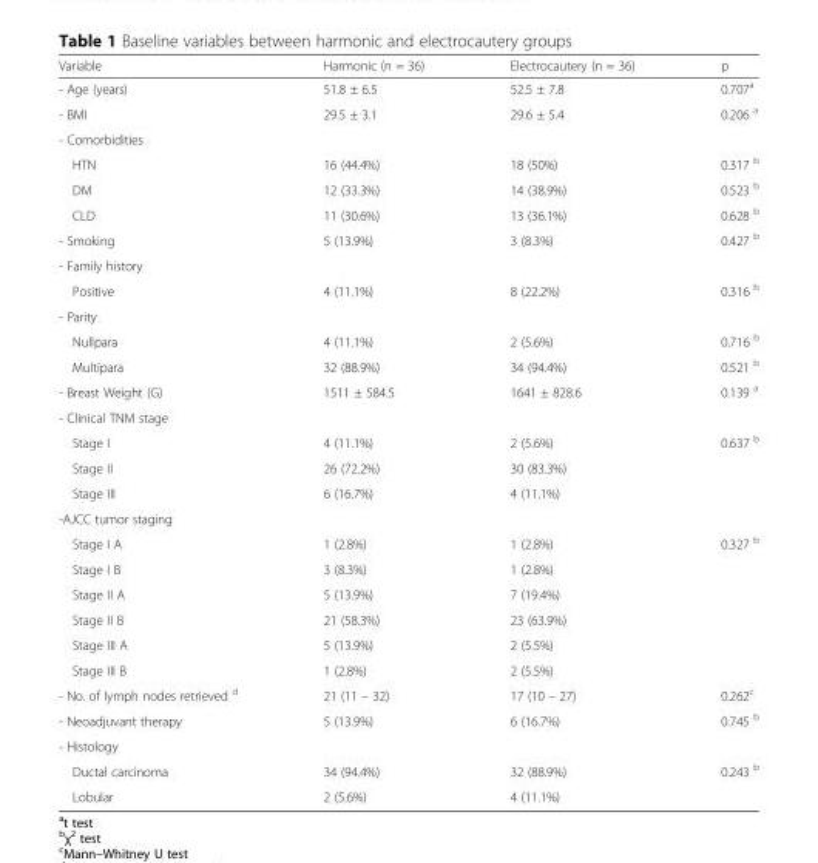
<table><thead><tr><td>Variable</td><td>Harmonic (n = 36)</td><td>Electrocautery (n = 36)</td><td>p</td></tr></thead><tbody><tr><td>- Age (years)</td><td>51.8 ± 6.5</td><td>52.5 ± 7.8</td><td>0.707<sup>a</sup></td></tr><tr><td>- BMI</td><td>29.5 ± 3.1</td><td>29.6 ± 5.4</td><td>0.206 <sup>a</sup></td></tr><tr><td colspan="4">- Comorbidities</td></tr><tr><td>HTN</td><td>16 (44.4%)</td><td>18 (50%)</td><td>0.317 <sup>b</sup></td></tr><tr><td>DM</td><td>12 (33.3%)</td><td>14 (38.9%)</td><td>0.523 <sup>b</sup></td></tr><tr><td>CLD</td><td>11 (30.6%)</td><td>13 (36.1%)</td><td>0.628 <sup>b</sup></td></tr><tr><td>- Smoking</td><td>5 (13.9%)</td><td>3 (8.3%)</td><td>0.427 <sup>b</sup></td></tr><tr><td colspan="4">- Family history</td></tr><tr><td>Positive</td><td>4 (11.1%)</td><td>8 (22.2%)</td><td>0.316 <sup>b</sup></td></tr><tr><td colspan="4">- Parity</td></tr><tr><td>Nullpara</td><td>4 (11.1%)</td><td>2 (5.6%)</td><td>0.716 <sup>b</sup></td></tr><tr><td>Multipara</td><td>32 (88.9%)</td><td>34 (94.4%)</td><td>0.521 <sup>b</sup></td></tr><tr><td>- Breast Weight (G)</td><td>1511 ± 584.5</td><td>1641 ± 828.6</td><td>0.139 <sup>a</sup></td></tr><tr><td colspan="4">- Clinical TNM stage</td></tr><tr><td>Stage I</td><td>4 (11.1%)</td><td>2 (5.6%)</td><td rowspan="3">0.637 <sup>b</sup></td></tr><tr><td>Stage II</td><td>26 (72.2%)</td><td>30 (83.3%)</td></tr><tr><td>Stage III</td><td>6 (16.7%)</td><td>4 (11.1%)</td></tr><tr><td colspan="4">-AJCC tumor staging</td></tr><tr><td>Stage I A</td><td>1 (2.8%)</td><td>1 (2.8%)</td><td rowspan="6">0.327 <sup>b</sup></td></tr><tr><td>Stage I B</td><td>3 (8.3%)</td><td>1 (2.8%)</td></tr><tr><td>Stage II A</td><td>5 (13.9%)</td><td>7 (19.4%)</td></tr><tr><td>Stage II B</td><td>21 (58.3%)</td><td>23 (63.9%)</td></tr><tr><td>Stage III A</td><td>5 (13.9%)</td><td>2 (5.5%)</td></tr><tr><td>Stage III B</td><td>1 (2.8%)</td><td>2 (5.5%)</td></tr><tr><td>- No. of lymph nodes retrieved <sup>d</sup></td><td>21 (11 – 32)</td><td>17 (10 – 27)</td><td>0.262<sup>c</sup></td></tr><tr><td>- Neoadjuvant therapy</td><td>5 (13.9%)</td><td>6 (16.7%)</td><td>0.745 <sup>b</sup></td></tr><tr><td colspan="4">- Histology</td></tr><tr><td>Ductal carcinoma</td><td>34 (94.4%)</td><td>32 (88.9%)</td><td rowspan="2">0.243 <sup>b</sup></td></tr><tr><td>Lobular</td><td>2 (5.6%)</td><td>4 (11.1%)</td></tr></tbody></table>